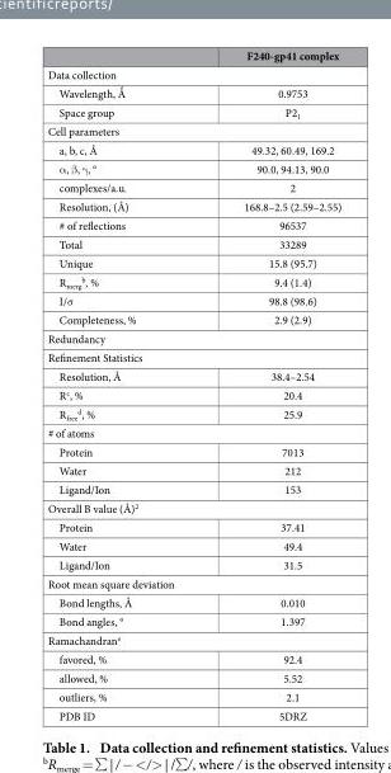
<table><thead><tr><td></td><td>F240-gp41 complex</td></tr></thead><tbody><tr><td colspan="2">Data collection</td></tr><tr><td>Wavelength, Ǻ</td><td>0.9753</td></tr><tr><td>Space group</td><td>P2<sub>1</sub></td></tr><tr><td colspan="2">Cell parameters</td></tr><tr><td>a, b, c, Å</td><td>49.32, 60.49, 169.2</td></tr><tr><td>α , β , γ , °</td><td>90.0, 94.13, 90.0</td></tr><tr><td>complexes/a.u.</td><td>2</td></tr><tr><td>Resolution, (Å)</td><td>168.8–2.5 (2.59–2.55)</td></tr><tr><td># of reflections</td><td>96537</td></tr><tr><td>Total</td><td>33289</td></tr><tr><td>Unique</td><td>15.8 (95.7)</td></tr><tr><td>R<sub>merg</sub> <sup>b</sup>, %</td><td>9.4 (1.4)</td></tr><tr><td>I/σ</td><td>98.8 (98.6)</td></tr><tr><td>Completeness, %</td><td>2.9 (2.9)</td></tr><tr><td colspan="2">Redundancy</td></tr><tr><td colspan="2">Refinement Statistics</td></tr><tr><td>Resolution, Å</td><td>38.4–2.54</td></tr><tr><td>R<sup>c</sup>, %</td><td>20.4</td></tr><tr><td>R<sub>free</sub> <sup>d</sup>, %</td><td>25.9</td></tr><tr><td colspan="2"># of atoms</td></tr><tr><td>Protein</td><td>7013</td></tr><tr><td>Water</td><td>212</td></tr><tr><td>Ligand/Ion</td><td>153</td></tr><tr><td colspan="2">Overall B value (Å)<sup>2</sup></td></tr><tr><td>Protein</td><td>37.41</td></tr><tr><td>Water</td><td>49.4</td></tr><tr><td>Ligand/Ion</td><td>31.5</td></tr><tr><td colspan="2">Root mean square deviation</td></tr><tr><td>Bond lengths, Å</td><td>0.010</td></tr><tr><td>Bond angles, °</td><td>1.397</td></tr><tr><td colspan="2">Ramachandran<sup>e</sup></td></tr><tr><td>favored, %</td><td>92.4</td></tr><tr><td>allowed, %</td><td>5.52</td></tr><tr><td>outliers, %</td><td>2.1</td></tr><tr><td>PDB ID</td><td>5DRZ</td></tr></tbody></table>